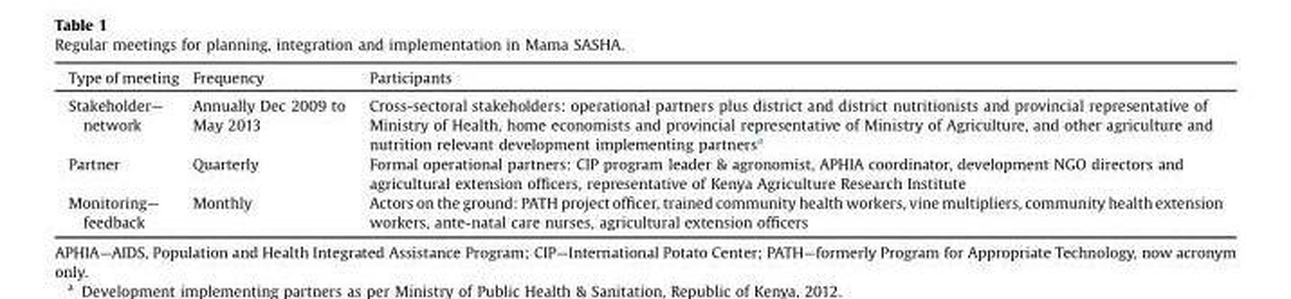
<table><thead><tr><td>Type of meeting</td><td>Frequency</td><td>Participants</td></tr></thead><tbody><tr><td>Stakeholder— network</td><td>Annually Dec 2009 to May 2013</td><td>Cross-sectoral stakeholders: operational partners plus district and district nutritionists and provincial representative of Ministry of Health, home economists and provincial representative of Ministry of Agriculture, and other agriculture and nutrition relevant development implementing partners<sup>a</sup></td></tr><tr><td>Partner</td><td>Quarterly</td><td>Formal operational partners: CIP program leader &amp; agronomist, APHIA coordinator, development NGO directors and agricultural extension officers, representative of Kenya Agriculture Research Institute</td></tr><tr><td>Monitoring— feedback</td><td>Monthly</td><td>Actors on the ground: PATH project officer, trained community health workers, vine multipliers, community health extension workers, ante-natal care nurses, agricultural extension officers</td></tr></tbody></table>